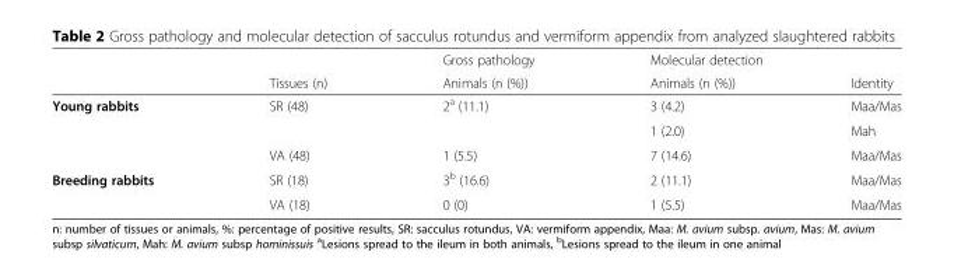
<table><thead><tr><td rowspan="2"></td><td rowspan="2">Tissues (n)</td><td rowspan="2">Gross pathology Animals (n (%))</td><td colspan="2">Molecular detection</td></tr><tr><td>Animals (n (%))</td><td>Identity</td></tr></thead><tbody><tr><td rowspan="3">Young rabbits</td><td>SR (48)</td><td>2<sup>a</sup> (11.1)</td><td>3 (4.2)</td><td>Maa/Mas</td></tr><tr><td></td><td></td><td>1 (2.0)</td><td>Mah</td></tr><tr><td>VA (48)</td><td>1 (5.5)</td><td>7 (14.6)</td><td>Maa/Mas</td></tr><tr><td rowspan="2">Breeding rabbits</td><td>SR (18)</td><td>3<sup>b</sup> (16.6)</td><td>2 (11.1)</td><td>Maa/Mas</td></tr><tr><td>VA (18)</td><td>0 (0)</td><td>1 (5.5)</td><td>Maa/Mas</td></tr></tbody></table>